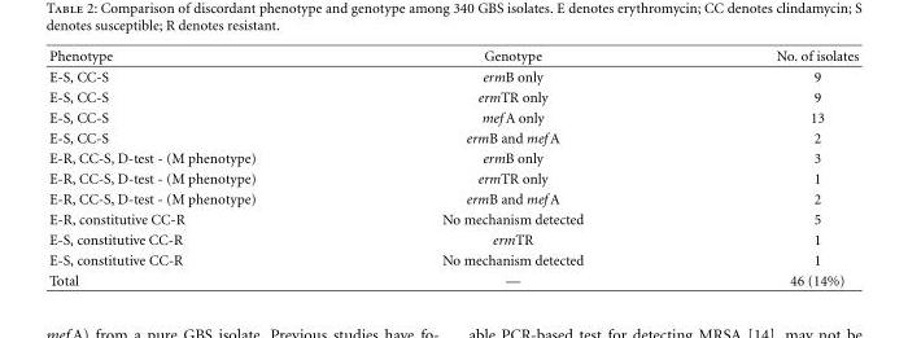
<table><tbody><tr><td>Phenotype</td><td>Genotype</td><td>No. of isolates</td></tr><tr><td>E-S, CC-S</td><td>ermB only</td><td>9</td></tr><tr><td>E-S, CC-S</td><td>ermTR only</td><td>9</td></tr><tr><td>E-S, CC-S</td><td>mef A only</td><td>13</td></tr><tr><td>E-S, CC-S</td><td>ermB and mef A</td><td>2</td></tr><tr><td>E-R, CC-S, D-test - (M phenotype)</td><td>ermB only</td><td>3</td></tr><tr><td>E-R, CC-S, D-test - (M phenotype)</td><td>ermTR only</td><td>1</td></tr><tr><td>E-R, CC-S, D-test - (M phenotype)</td><td>ermB and mef A</td><td>2</td></tr><tr><td>E-R, constitutive CC-R</td><td>No mechanism detected</td><td>5</td></tr><tr><td>E-S, constitutive CC-R</td><td>ermTR</td><td>1</td></tr><tr><td>E-S, constitutive CC-R</td><td>No mechanism detected</td><td>1</td></tr><tr><td>Total</td><td>—</td><td>46 (14%)</td></tr></tbody></table>